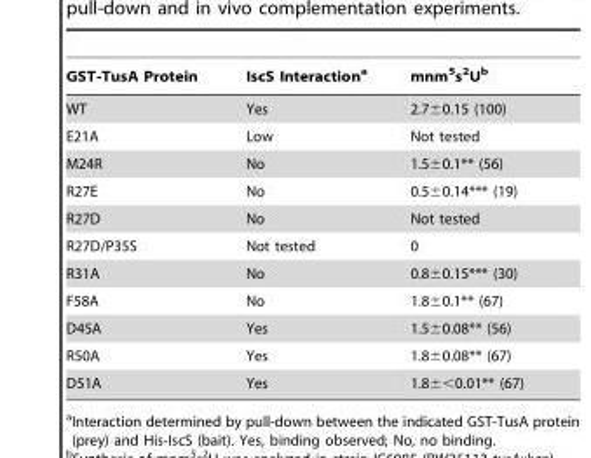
<table><thead><tr><td>GST-TusA Protein</td><td>IscS Interaction<sup>a</sup></td><td>mnm<sup>5</sup>s<sup>2</sup>U<sup>b</sup></td></tr></thead><tbody><tr><td>WT</td><td>Yes</td><td>2.7±0.15 (100)</td></tr><tr><td>E21A</td><td>Low</td><td>Not tested</td></tr><tr><td>M24R</td><td>No</td><td>1.5±0.1** (56)</td></tr><tr><td>R27E</td><td>No</td><td>0.5±0.14*** (19)</td></tr><tr><td>R27D</td><td>No</td><td>Not tested</td></tr><tr><td>R27D/P35S</td><td>Not tested</td><td>0</td></tr><tr><td>R31A</td><td>No</td><td>0.8±0.15*** (30)</td></tr><tr><td>F58A</td><td>No</td><td>1.8±0.1** (67)</td></tr><tr><td>D45A</td><td>Yes</td><td>1.5±0.08** (56)</td></tr><tr><td>R50A</td><td>Yes</td><td>1.8±0.08** (67)</td></tr><tr><td>D51A</td><td>Yes</td><td>1.8±&lt;0.01** (67)</td></tr></tbody></table>